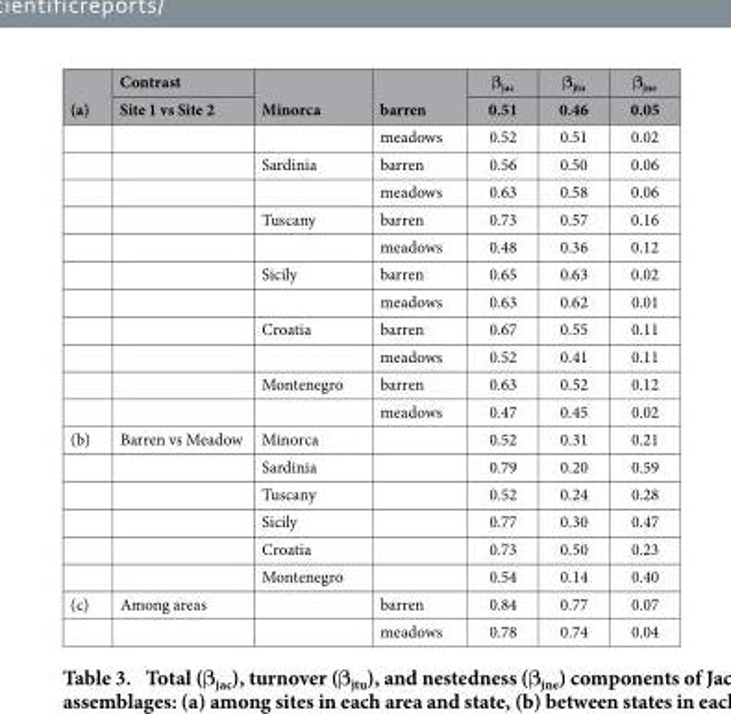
<table><thead><tr><td rowspan="2">(a)</td><td rowspan="2">Contrast Site 1 vs Site 2</td><td rowspan="2">Minorca</td><td rowspan="2">barren</td><td rowspan="2">β<sub>jac</sub> 0.51</td><td rowspan="2">β<sub>jtu</sub> 0.46</td><td rowspan="2">β<sub>jne</sub> 0.05</td></tr><tr></tr></thead><tbody><tr><td></td><td></td><td></td><td>meadows</td><td>0.52</td><td>0.51</td><td>0.02</td></tr><tr><td></td><td></td><td>Sardinia</td><td>barren</td><td>0.56</td><td>0.50</td><td>0.06</td></tr><tr><td></td><td></td><td></td><td>meadows</td><td>0.63</td><td>0.58</td><td>0.06</td></tr><tr><td></td><td></td><td>Tuscany</td><td>barren</td><td>0.73</td><td>0.57</td><td>0.16</td></tr><tr><td></td><td></td><td></td><td>meadows</td><td>0.48</td><td>0.36</td><td>0.12</td></tr><tr><td></td><td></td><td>Sicily</td><td>barren</td><td>0.65</td><td>0.63</td><td>0.02</td></tr><tr><td></td><td></td><td></td><td>meadows</td><td>0.63</td><td>0.62</td><td>0.01</td></tr><tr><td></td><td></td><td>Croatia</td><td>barren</td><td>0.67</td><td>0.55</td><td>0.11</td></tr><tr><td></td><td></td><td></td><td>meadows</td><td>0.52</td><td>0.41</td><td>0.11</td></tr><tr><td></td><td></td><td>Montenegro</td><td>barren</td><td>0.63</td><td>0.52</td><td>0.12</td></tr><tr><td></td><td></td><td></td><td>meadows</td><td>0.47</td><td>0.45</td><td>0.02</td></tr><tr><td rowspan="6">(b)</td><td>Barren vs Meadow</td><td>Minorca</td><td></td><td>0.52</td><td>0.31</td><td>0.21</td></tr><tr><td></td><td>Sardinia</td><td></td><td>0.79</td><td>0.20</td><td>0.59</td></tr><tr><td></td><td>Tuscany</td><td></td><td>0.52</td><td>0.24</td><td>0.28</td></tr><tr><td></td><td>Sicily</td><td></td><td>0.77</td><td>0.30</td><td>0.47</td></tr><tr><td></td><td>Croatia</td><td></td><td>0.73</td><td>0.50</td><td>0.23</td></tr><tr><td></td><td>Montenegro</td><td></td><td>0.54</td><td>0.14</td><td>0.40</td></tr><tr><td rowspan="2">(c)</td><td>Among areas</td><td></td><td>barren</td><td>0.84</td><td>0.77</td><td>0.07</td></tr><tr><td></td><td></td><td>meadows</td><td>0.78</td><td>0.74</td><td>0.04</td></tr></tbody></table>